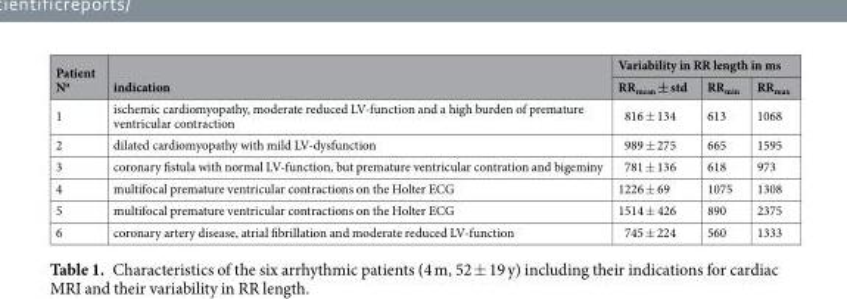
<table><thead><tr><td rowspan="2">Patient N<sup>o</sup></td><td rowspan="2">indication</td><td colspan="3">Variability in RR length in ms</td></tr><tr><td>RR<sub>mean</sub> ± std</td><td>RR<sub>min</sub></td><td>RR<sub>max</sub></td></tr></thead><tbody><tr><td>1</td><td>ischemic cardiomyopathy, moderate reduced LV-function and a high burden of premature ventricular contraction</td><td>816 ± 134</td><td>613</td><td>1068</td></tr><tr><td>2</td><td>dilated cardiomyopathy with mild LV-dysfunction</td><td>989 ± 275</td><td>665</td><td>1595</td></tr><tr><td>3</td><td>coronary fistula with normal LV-function, but premature ventricular contration and bigeminy</td><td>781 ± 136</td><td>618</td><td>973</td></tr><tr><td>4</td><td>multifocal premature ventricular contractions on the Holter ECG</td><td>1226 ± 69</td><td>1075</td><td>1308</td></tr><tr><td>5</td><td>multifocal premature ventricular contractions on the Holter ECG</td><td>1514 ± 426</td><td>890</td><td>2375</td></tr><tr><td>6</td><td>coronary artery disease, atrial fibrillation and moderate reduced LV-function</td><td>745 ± 224</td><td>560</td><td>1333</td></tr></tbody></table>